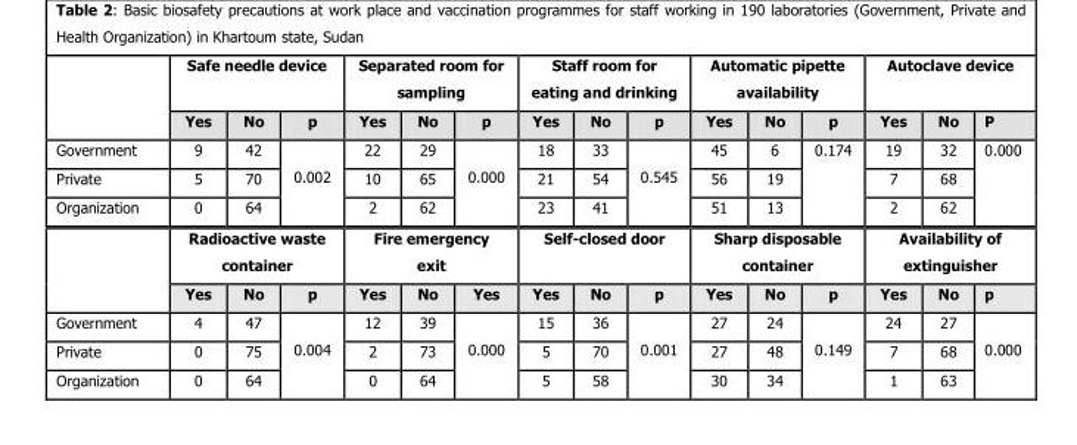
<table><thead><tr><td rowspan="2"></td><td colspan="3">Safe needle device</td><td colspan="3">Separated room for sampling</td><td colspan="3">Staff room for eating and drinking</td><td colspan="3">Automatic pipette availability</td><td colspan="3">Autoclave device</td></tr><tr><td>Yes</td><td>No</td><td>p</td><td>Yes</td><td>No</td><td>p</td><td>Yes</td><td>No</td><td>p</td><td>Yes</td><td>No</td><td>p</td><td>Yes</td><td>No</td><td>P</td></tr></thead><tbody><tr><td>Government</td><td>9</td><td>42</td><td rowspan="3">0.002</td><td>22</td><td>29</td><td rowspan="3">0.000</td><td>18</td><td>33</td><td rowspan="3">0.545</td><td>45</td><td>6</td><td rowspan="3">0.174</td><td>19</td><td>32</td><td rowspan="3">0.000</td></tr><tr><td>Private</td><td>5</td><td>70</td><td>10</td><td>65</td><td>21</td><td>54</td><td>56</td><td>19</td><td>7</td><td>68</td></tr><tr><td rowspan="3">Organization</td><td>0</td><td>64</td><td>2</td><td>62</td><td>23</td><td>41</td><td>51</td><td>13</td><td>2</td><td>62</td></tr><tr><td colspan="3">Radioactive waste container</td><td colspan="3">Fire emergency exit</td><td colspan="3">Self-closed door</td><td colspan="3">Sharp disposable container</td><td colspan="3">Availability of extinguisher</td></tr><tr><td>Yes</td><td>No</td><td>p</td><td>Yes</td><td>No</td><td>Yes</td><td>Yes</td><td>No</td><td>p</td><td>Yes</td><td>No</td><td>p</td><td>Yes</td><td>No</td><td>p</td></tr><tr><td>Government</td><td>4</td><td>47</td><td rowspan="3">0.004</td><td>12</td><td>39</td><td rowspan="3">0.000</td><td>15</td><td>36</td><td rowspan="3">0.001</td><td>27</td><td>24</td><td rowspan="3">0.149</td><td>24</td><td>27</td><td rowspan="3">0.000</td></tr><tr><td>Private</td><td>0</td><td>75</td><td>2</td><td>73</td><td>5</td><td>70</td><td>27</td><td>48</td><td>7</td><td>68</td></tr><tr><td>Organization</td><td>0</td><td>64</td><td>0</td><td>64</td><td>5</td><td>58</td><td>30</td><td>34</td><td>1</td><td>63</td></tr></tbody></table>